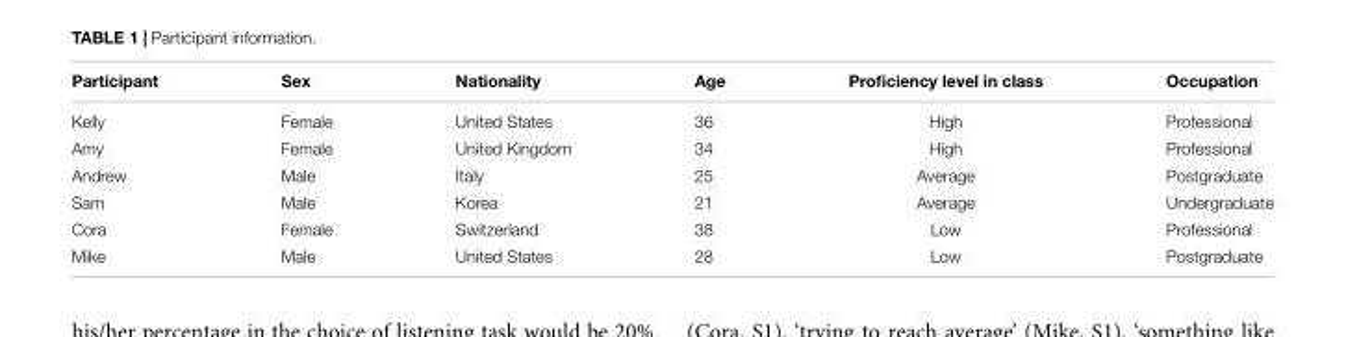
<table><thead><tr><td>Participant</td><td>Sex</td><td>Nationality</td><td>Age</td><td>Proficiency level in class</td><td>Occupation</td></tr></thead><tbody><tr><td>Kelly</td><td>Female</td><td>United States</td><td>36</td><td>High</td><td>Professional</td></tr><tr><td>Amy</td><td>Female</td><td>United Kingdom</td><td>34</td><td>High</td><td>Professional</td></tr><tr><td>Andrew</td><td>Male</td><td>Italy</td><td>25</td><td>Average</td><td>Postgraduate</td></tr><tr><td>Sam</td><td>Male</td><td>Korea</td><td>21</td><td>Average</td><td>Undergraduate</td></tr><tr><td>Cora</td><td>Female</td><td>Switzerland</td><td>38</td><td>Low</td><td>Professional</td></tr><tr><td>Mike</td><td>Male</td><td>United States</td><td>28</td><td>Low</td><td>Postgraduate</td></tr></tbody></table>